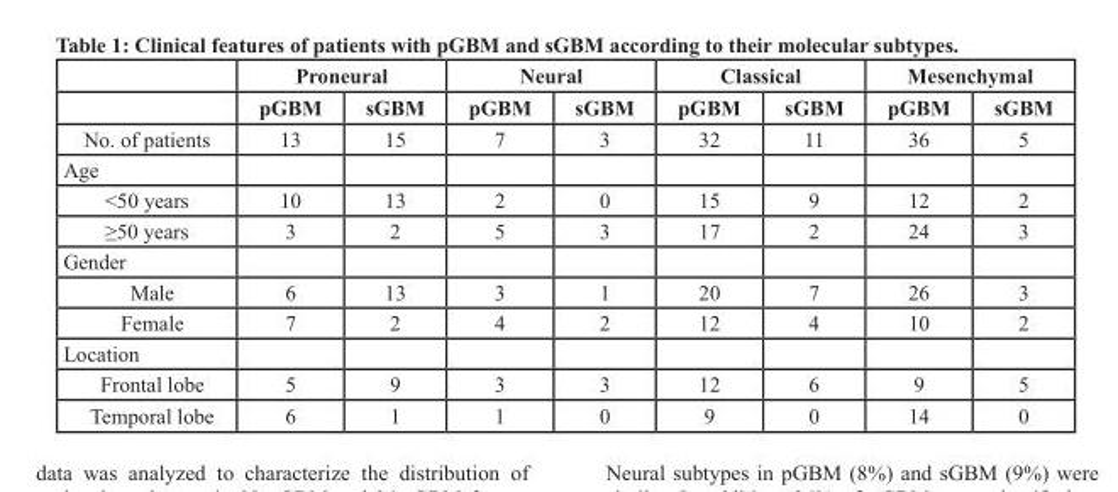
<table><thead><tr><td rowspan="2"></td><td colspan="2">Proneural</td><td colspan="2">Neural</td><td colspan="2">Classical</td><td colspan="2">Mesenchymal</td></tr><tr><td>pGBM</td><td>sGBM</td><td>pGBM</td><td>sGBM</td><td>pGBM</td><td>sGBM</td><td>pGBM</td><td>sGBM</td></tr></thead><tbody><tr><td>No. of patients</td><td>13</td><td>15</td><td>7</td><td>3</td><td>32</td><td>11</td><td>36</td><td>5</td></tr><tr><td colspan="9">Age</td></tr><tr><td>&lt;50 years</td><td>10</td><td>13</td><td>2</td><td>0</td><td>15</td><td>9</td><td>12</td><td>2</td></tr><tr><td>≥50 years</td><td>3</td><td>2</td><td>5</td><td>3</td><td>17</td><td>2</td><td>24</td><td>3</td></tr><tr><td colspan="9">Gender</td></tr><tr><td>Male</td><td>6</td><td>13</td><td>3</td><td>1</td><td>20</td><td>7</td><td>26</td><td>3</td></tr><tr><td>Female</td><td>7</td><td>2</td><td>4</td><td>2</td><td>12</td><td>4</td><td>10</td><td>2</td></tr><tr><td colspan="9">Location</td></tr><tr><td>Frontal lobe</td><td>5</td><td>9</td><td>3</td><td>3</td><td>12</td><td>6</td><td>9</td><td>5</td></tr><tr><td>Temporal lobe</td><td>6</td><td>1</td><td>1</td><td>0</td><td>9</td><td>0</td><td>14</td><td>0</td></tr></tbody></table>